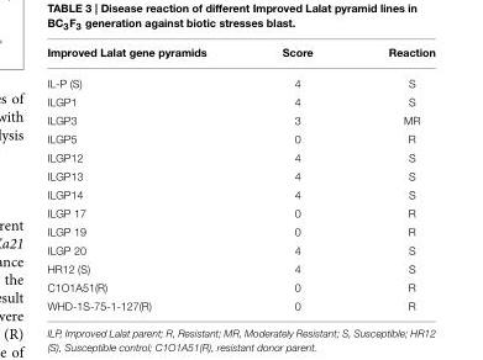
<table><thead><tr><td>Improved Lalat gene pyramids</td><td>Score</td><td>Reaction</td></tr></thead><tbody><tr><td>IL-P (S)</td><td>4</td><td>S</td></tr><tr><td>ILGP1</td><td>4</td><td>S</td></tr><tr><td>ILGP3</td><td>3</td><td>MR</td></tr><tr><td>ILGP5</td><td>0</td><td>R</td></tr><tr><td>ILGP12</td><td>4</td><td>S</td></tr><tr><td>ILGP13</td><td>4</td><td>S</td></tr><tr><td>ILGP14</td><td>4</td><td>S</td></tr><tr><td>ILGP 17</td><td>0</td><td>R</td></tr><tr><td>ILGP 19</td><td>0</td><td>R</td></tr><tr><td>ILGP 20</td><td>4</td><td>S</td></tr><tr><td>HR12 (S)</td><td>4</td><td>S</td></tr><tr><td>C1O1A51(R)</td><td>0</td><td>R</td></tr><tr><td>WHD-1S-75-1-127(R)</td><td>0</td><td>R</td></tr></tbody></table>